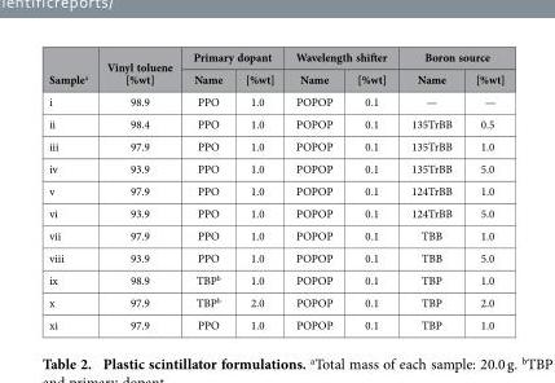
<table><thead><tr><td rowspan="2">Sample<sup>a</sup></td><td rowspan="2">Vinyl toluene [%wt]</td><td colspan="2">Primary dopant</td><td colspan="2">Wavelength shifter</td><td colspan="2">Boron source</td></tr><tr><td>Name</td><td>[%wt]</td><td>Name</td><td>[%wt]</td><td>Name</td><td>[%wt]</td></tr></thead><tbody><tr><td>i</td><td>98.9</td><td>PPO</td><td>1.0</td><td>POPOP</td><td>0.1</td><td>—</td><td>—</td></tr><tr><td>ii</td><td>98.4</td><td>PPO</td><td>1.0</td><td>POPOP</td><td>0.1</td><td>135TrBB</td><td>0.5</td></tr><tr><td>iii</td><td>97.9</td><td>PPO</td><td>1.0</td><td>POPOP</td><td>0.1</td><td>135TrBB</td><td>1.0</td></tr><tr><td>iv</td><td>93.9</td><td>PPO</td><td>1.0</td><td>POPOP</td><td>0.1</td><td>135TrBB</td><td>5.0</td></tr><tr><td>v</td><td>97.9</td><td>PPO</td><td>1.0</td><td>POPOP</td><td>0.1</td><td>124TrBB</td><td>1.0</td></tr><tr><td>vi</td><td>93.9</td><td>PPO</td><td>1.0</td><td>POPOP</td><td>0.1</td><td>124TrBB</td><td>5.0</td></tr><tr><td>vii</td><td>97.9</td><td>PPO</td><td>1.0</td><td>POPOP</td><td>0.1</td><td>TBB</td><td>1.0</td></tr><tr><td>viii</td><td>93.9</td><td>PPO</td><td>1.0</td><td>POPOP</td><td>0.1</td><td>TBB</td><td>5.0</td></tr><tr><td>ix</td><td>98.9</td><td>TBP<sup>b</sup></td><td>1.0</td><td>POPOP</td><td>0.1</td><td>TBP</td><td>1.0</td></tr><tr><td>x</td><td>97.9</td><td>TBP<sup>b</sup></td><td>2.0</td><td>POPOP</td><td>0.1</td><td>TBP</td><td>2.0</td></tr><tr><td>xi</td><td>97.9</td><td>PPO</td><td>1.0</td><td>POPOP</td><td>0.1</td><td>TBP</td><td>1.0</td></tr></tbody></table>